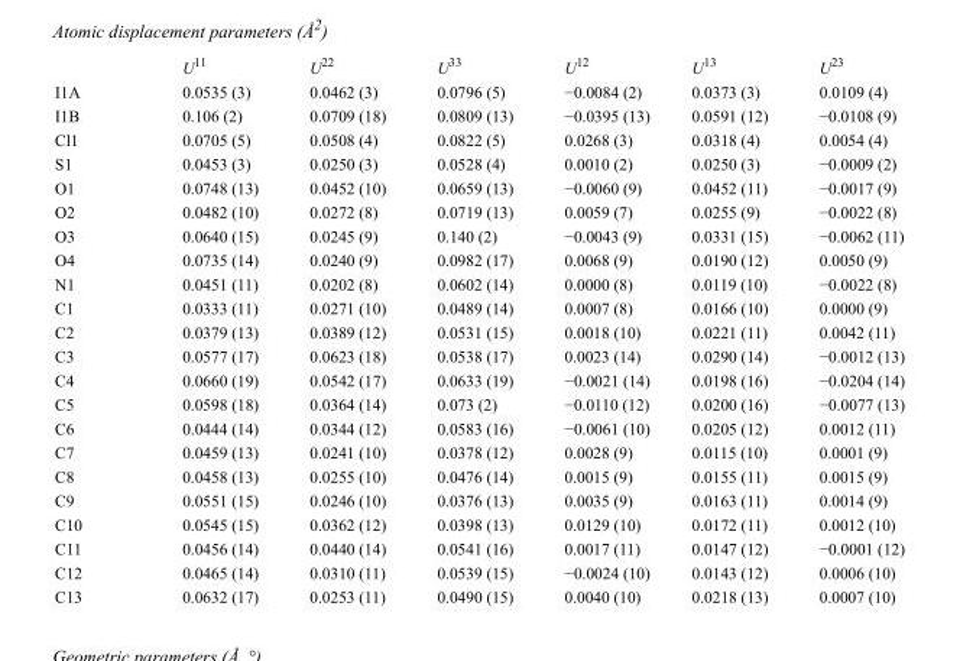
<table><thead><tr><td></td><td>U<sup>11</sup></td><td>U<sup>22</sup></td><td>U<sup>33</sup></td><td>U<sup>12</sup></td><td>U<sup>13</sup></td><td>U<sup>23</sup></td></tr></thead><tbody><tr><td>I1A</td><td>0.0535 (3)</td><td>0.0462 (3)</td><td>0.0796 (5)</td><td>−0.0084 (2)</td><td>0.0373 (3)</td><td>0.0109 (4)</td></tr><tr><td>I1B</td><td>0.106 (2)</td><td>0.0709 (18)</td><td>0.0809 (13)</td><td>−0.0395 (13)</td><td>0.0591 (12)</td><td>−0.0108 (9)</td></tr><tr><td>Cl1</td><td>0.0705 (5)</td><td>0.0508 (4)</td><td>0.0822 (5)</td><td>0.0268 (3)</td><td>0.0318 (4)</td><td>0.0054 (4)</td></tr><tr><td>S1</td><td>0.0453 (3)</td><td>0.0250 (3)</td><td>0.0528 (4)</td><td>0.0010 (2)</td><td>0.0250 (3)</td><td>−0.0009 (2)</td></tr><tr><td>O1</td><td>0.0748 (13)</td><td>0.0452 (10)</td><td>0.0659 (13)</td><td>−0.0060 (9)</td><td>0.0452 (11)</td><td>−0.0017 (9)</td></tr><tr><td>O2</td><td>0.0482 (10)</td><td>0.0272 (8)</td><td>0.0719 (13)</td><td>0.0059 (7)</td><td>0.0255 (9)</td><td>−0.0022 (8)</td></tr><tr><td>O3</td><td>0.0640 (15)</td><td>0.0245 (9)</td><td>0.140 (2)</td><td>−0.0043 (9)</td><td>0.0331 (15)</td><td>−0.0062 (11)</td></tr><tr><td>O4</td><td>0.0735 (14)</td><td>0.0240 (9)</td><td>0.0982 (17)</td><td>0.0068 (9)</td><td>0.0190 (12)</td><td>0.0050 (9)</td></tr><tr><td>N1</td><td>0.0451 (11)</td><td>0.0202 (8)</td><td>0.0602 (14)</td><td>0.0000 (8)</td><td>0.0119 (10)</td><td>−0.0022 (8)</td></tr><tr><td>C1</td><td>0.0333 (11)</td><td>0.0271 (10)</td><td>0.0489 (14)</td><td>0.0007 (8)</td><td>0.0166 (10)</td><td>0.0000 (9)</td></tr><tr><td>C2</td><td>0.0379 (13)</td><td>0.0389 (12)</td><td>0.0531 (15)</td><td>0.0018 (10)</td><td>0.0221 (11)</td><td>0.0042 (11)</td></tr><tr><td>C3</td><td>0.0577 (17)</td><td>0.0623 (18)</td><td>0.0538 (17)</td><td>0.0023 (14)</td><td>0.0290 (14)</td><td>−0.0012 (13)</td></tr><tr><td>C4</td><td>0.0660 (19)</td><td>0.0542 (17)</td><td>0.0633 (19)</td><td>−0.0021 (14)</td><td>0.0198 (16)</td><td>−0.0204 (14)</td></tr><tr><td>C5</td><td>0.0598 (18)</td><td>0.0364 (14)</td><td>0.073 (2)</td><td>−0.0110 (12)</td><td>0.0200 (16)</td><td>−0.0077 (13)</td></tr><tr><td>C6</td><td>0.0444 (14)</td><td>0.0344 (12)</td><td>0.0583 (16)</td><td>−0.0061 (10)</td><td>0.0205 (12)</td><td>0.0012 (11)</td></tr><tr><td>C7</td><td>0.0459 (13)</td><td>0.0241 (10)</td><td>0.0378 (12)</td><td>0.0028 (9)</td><td>0.0115 (10)</td><td>0.0001 (9)</td></tr><tr><td>C8</td><td>0.0458 (13)</td><td>0.0255 (10)</td><td>0.0476 (14)</td><td>0.0015 (9)</td><td>0.0155 (11)</td><td>0.0015 (9)</td></tr><tr><td>C9</td><td>0.0551 (15)</td><td>0.0246 (10)</td><td>0.0376 (13)</td><td>0.0035 (9)</td><td>0.0163 (11)</td><td>0.0014 (9)</td></tr><tr><td>C10</td><td>0.0545 (15)</td><td>0.0362 (12)</td><td>0.0398 (13)</td><td>0.0129 (10)</td><td>0.0172 (11)</td><td>0.0012 (10)</td></tr><tr><td>C11</td><td>0.0456 (14)</td><td>0.0440 (14)</td><td>0.0541 (16)</td><td>0.0017 (11)</td><td>0.0147 (12)</td><td>−0.0001 (12)</td></tr><tr><td>C12</td><td>0.0465 (14)</td><td>0.0310 (11)</td><td>0.0539 (15)</td><td>−0.0024 (10)</td><td>0.0143 (12)</td><td>0.0006 (10)</td></tr><tr><td>C13</td><td>0.0632 (17)</td><td>0.0253 (11)</td><td>0.0490 (15)</td><td>0.0040 (10)</td><td>0.0218 (13)</td><td>0.0007 (10)</td></tr></tbody></table>